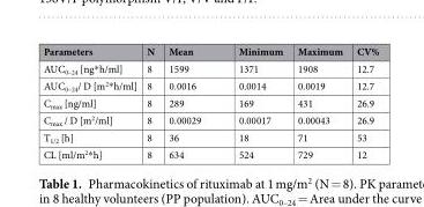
<table><thead><tr><td>Parameters</td><td>N</td><td>Mean</td><td>Minimum</td><td>Maximum</td><td>CV%</td></tr></thead><tbody><tr><td>AUC<sub>0–24</sub> [ng*h/ml]</td><td>8</td><td>1599</td><td>1371</td><td>1908</td><td>12.7</td></tr><tr><td>AUC<sub>0–24</sub>/ D [m<sup>2</sup>*h/ml]</td><td>8</td><td>0.0016</td><td>0.0014</td><td>0.0019</td><td>12.7</td></tr><tr><td>C<sub>max</sub> [ng/ml]</td><td>8</td><td>289</td><td>169</td><td>431</td><td>26.9</td></tr><tr><td>C<sub>max</sub> / D [m<sup>2</sup>/ml]</td><td>8</td><td>0.00029</td><td>0.00017</td><td>0.00043</td><td>26.9</td></tr><tr><td>T<sub>1/2</sub> [h]</td><td>8</td><td>36</td><td>18</td><td>71</td><td>53</td></tr><tr><td>CL [ml/m<sup>2</sup>*h]</td><td>8</td><td>634</td><td>524</td><td>729</td><td>12</td></tr></tbody></table>